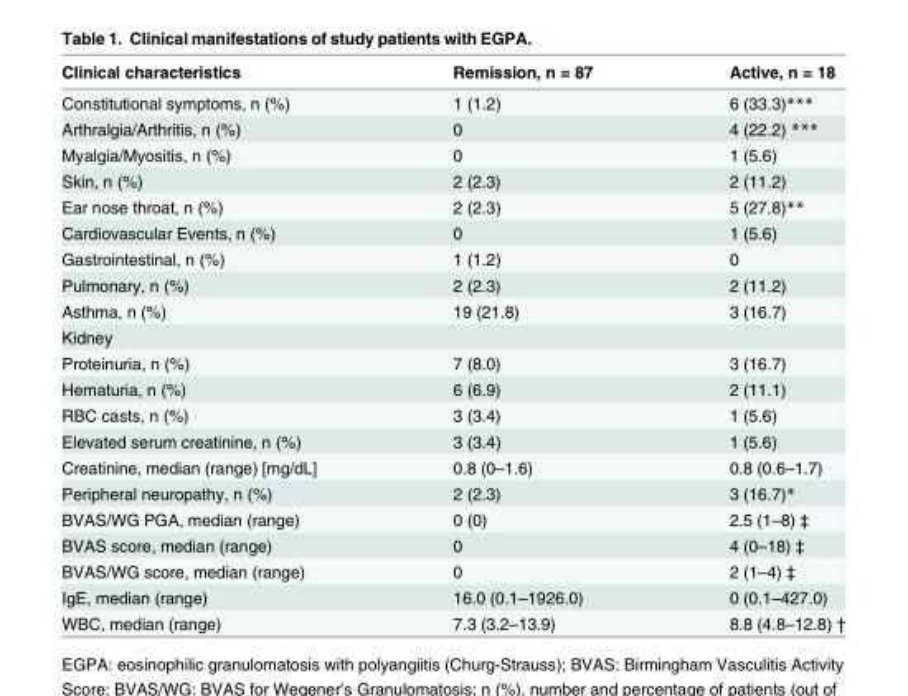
<table><thead><tr><td>Clinical characteristics</td><td>Remission, n = 87</td><td>Active, n = 18</td></tr></thead><tbody><tr><td>Constitutional symptoms, n (%)</td><td>1 (1.2)</td><td>6 (33.3)***</td></tr><tr><td>Arthralgia/Arthritis, n (%)</td><td>0</td><td>4 (22.2) ***</td></tr><tr><td>Myalgia/Myositis, n (%)</td><td>0</td><td>1 (5.6)</td></tr><tr><td>Skin, n (%)</td><td>2 (2.3)</td><td>2 (11.2)</td></tr><tr><td>Ear nose throat, n (%)</td><td>2 (2.3)</td><td>5 (27.8)**</td></tr><tr><td>Cardiovascular Events, n (%)</td><td>0</td><td>1 (5.6)</td></tr><tr><td>Gastrointestinal, n (%)</td><td>1 (1.2)</td><td>0</td></tr><tr><td>Pulmonary, n (%)</td><td>2 (2.3)</td><td>2 (11.2)</td></tr><tr><td>Asthma, n (%)</td><td>19 (21.8)</td><td>3 (16.7)</td></tr><tr><td colspan="3">Kidney</td></tr><tr><td>Proteinuria, n (%)</td><td>7 (8.0)</td><td>3 (16.7)</td></tr><tr><td>Hematuria, n (%)</td><td>6 (6.9)</td><td>2 (11.1)</td></tr><tr><td>RBC casts, n (%)</td><td>3 (3.4)</td><td>1 (5.6)</td></tr><tr><td>Elevated serum creatinine, n (%)</td><td>3 (3.4)</td><td>1 (5.6)</td></tr><tr><td>Creatinine, median (range) [mg/dL]</td><td>0.8 (0–1.6)</td><td>0.8 (0.6–1.7)</td></tr><tr><td>Peripheral neuropathy, n (%)</td><td>2 (2.3)</td><td>3 (16.7)*</td></tr><tr><td>BVAS/WG PGA, median (range)</td><td>0 (0)</td><td>2.5 (1–8) ‡</td></tr><tr><td>BVAS score, median (range)</td><td>0</td><td>4 (0–18) ‡</td></tr><tr><td>BVAS/WG score, median (range)</td><td>0</td><td>2 (1–4) ‡</td></tr><tr><td>IgE, median (range)</td><td>16.0 (0.1–1926.0)</td><td>0 (0.1–427.0)</td></tr><tr><td>WBC, median (range)</td><td>7.3 (3.2–13.9)</td><td>8.8 (4.8–12.8) †</td></tr></tbody></table>